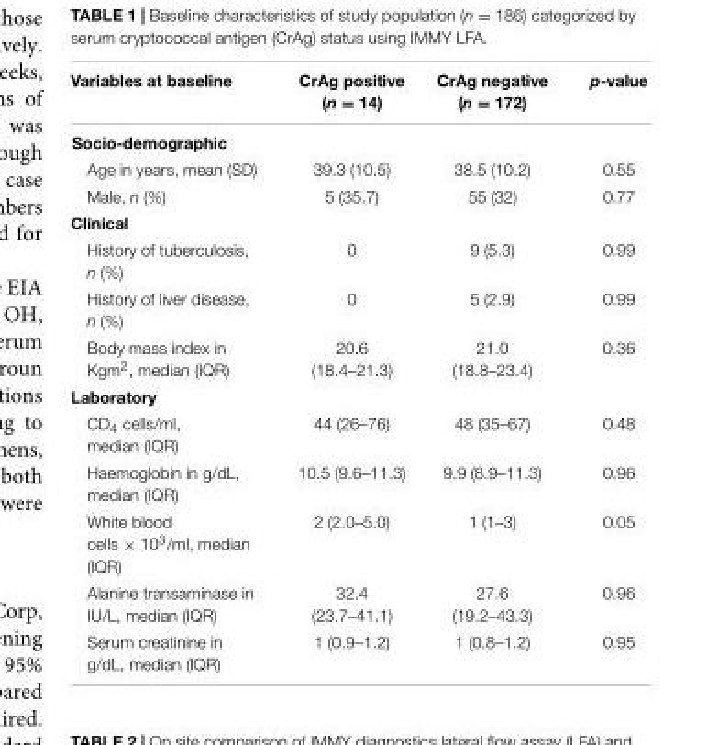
<table><thead><tr><td>Variables at baseline</td><td>CrAg positive (n = 14)</td><td>CrAg negative (n = 172)</td><td>p-value</td></tr></thead><tbody><tr><td colspan="4">Socio-demographic</td></tr><tr><td>Age in years, mean (SD)</td><td>39.3 (10.5)</td><td>38.5 (10.2)</td><td>0.55</td></tr><tr><td>Male, n (%)</td><td>5 (35.7)</td><td>55 (32)</td><td>0.77</td></tr><tr><td colspan="4">Clinical</td></tr><tr><td>History of tuberculosis, n (%)</td><td>0</td><td>9 (5.3)</td><td>0.99</td></tr><tr><td>History of liver disease, n (%)</td><td>0</td><td>5 (2.9)</td><td>0.99</td></tr><tr><td>Body mass index in</td><td>20.6</td><td>21.0</td><td>0.36</td></tr><tr><td>Kgm<sup>2</sup>, median (IQR)</td><td>(18.4–21.3)</td><td>(18.8–23.4)</td><td></td></tr><tr><td colspan="4">Laboratory</td></tr><tr><td>CD<sub>4</sub> cells/ml, median (IQR)</td><td>44 (26–76)</td><td>48 (35–67)</td><td>0.48</td></tr><tr><td>Haemoglobin in g/dL, median (IQR)</td><td>10.5 (9.6–11.3)</td><td>9.9 (8.9–11.3)</td><td>0.96</td></tr><tr><td>White blood cells × 10<sup>3</sup>/ml, median (IQR)</td><td>2 (2.0–5.0)</td><td>1 (1–3)</td><td>0.05</td></tr><tr><td>Alanine transaminase in IU/L, median (IQR)</td><td>32.4 (23.7–41.1)</td><td>27.6 (19.2–43.3)</td><td>0.96</td></tr><tr><td>Serum creatinine in g/dL, median (IQR)</td><td>1 (0.9–1.2)</td><td>1 (0.8–1.2)</td><td>0.95</td></tr></tbody></table>